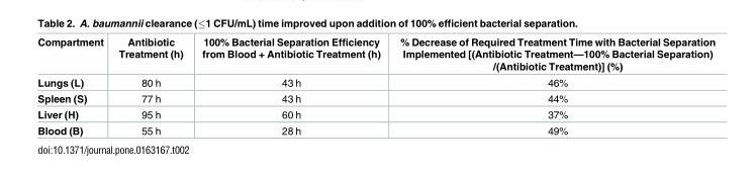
<table><thead><tr><td>Compartment</td><td>Antibiotic Treatment (h)</td><td>100% Bacterial Separation Efficiency from Blood + Antibiotic Treatment (h)</td><td>% Decrease of Required Treatment Time with Bacterial Separation Implemented [(Antibiotic Treatment—100% Bacterial Separation) /(Antibiotic Treatment)] (%)</td></tr></thead><tbody><tr><td>Lungs (L)</td><td>80 h</td><td>43 h</td><td>46%</td></tr><tr><td>Spleen (S)</td><td>77 h</td><td>43 h</td><td>44%</td></tr><tr><td>Liver (H)</td><td>95 h</td><td>60 h</td><td>37%</td></tr><tr><td>Blood (B)</td><td>55 h</td><td>28 h</td><td>49%</td></tr></tbody></table>